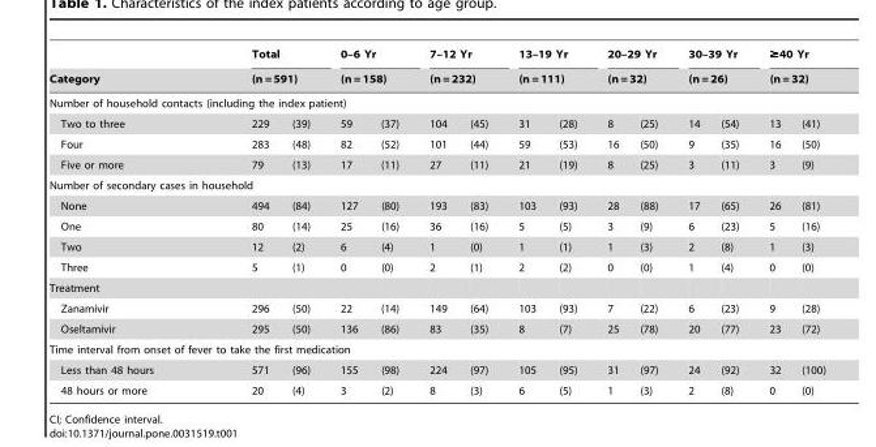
<table><thead><tr><td rowspan="2">Category</td><td rowspan="2" colspan="2">Total (n = 591)</td><td rowspan="2" colspan="2">0–6 Yr (n = 158)</td><td rowspan="2" colspan="2">7–12 Yr (n = 232)</td><td rowspan="2" colspan="2">13–19 Yr (n = 111)</td><td rowspan="2" colspan="2">20–29 Yr (n = 32)</td><td rowspan="2" colspan="2">30–39 Yr (n = 26)</td><td rowspan="2" colspan="2">≥40 Yr (n = 32)</td></tr><tr></tr><tr><td colspan="7">Number of household contacts (including the index patient)</td><td rowspan="2">31</td><td rowspan="2">(28)</td><td rowspan="2">8</td><td rowspan="2">(25)</td><td rowspan="2">14</td><td rowspan="2">(54)</td><td rowspan="2">13</td><td rowspan="2">(41)</td></tr><tr><td>Two to three</td><td>229</td><td>(39)</td><td>59</td><td>(37)</td><td>104</td><td>(45)</td></tr></thead><tbody><tr><td>Four</td><td>283</td><td>(48)</td><td>82</td><td>(52)</td><td>101</td><td>(44)</td><td>59</td><td>(53)</td><td>16</td><td>(50)</td><td>9</td><td>(35)</td><td>16</td><td>(50)</td></tr><tr><td>Five or more</td><td>79</td><td>(13)</td><td>17</td><td>(11)</td><td>27</td><td>(11)</td><td>21</td><td>(19)</td><td>8</td><td>(25)</td><td>3</td><td>(11)</td><td>3</td><td>(9)</td></tr><tr><td colspan="15">Number of secondary cases in household</td></tr><tr><td>None</td><td>494</td><td>(84)</td><td>127</td><td>(80)</td><td>193</td><td>(83)</td><td>103</td><td>(93)</td><td>28</td><td>(88)</td><td>17</td><td>(65)</td><td>26</td><td>(81)</td></tr><tr><td>One</td><td>80</td><td>(14)</td><td>25</td><td>(16)</td><td>36</td><td>(16)</td><td>5</td><td>(5)</td><td>3</td><td>(9)</td><td>6</td><td>(23)</td><td>5</td><td>(16)</td></tr><tr><td>Two</td><td>12</td><td>(2)</td><td>6</td><td>(4)</td><td>1</td><td>(0)</td><td>1</td><td>(1)</td><td>1</td><td>(3)</td><td>2</td><td>(8)</td><td>1</td><td>(3)</td></tr><tr><td>Three</td><td>5</td><td>(1)</td><td>0</td><td>(0)</td><td>2</td><td>(1)</td><td>2</td><td>(2)</td><td>0</td><td>(0)</td><td>1</td><td>(4)</td><td>0</td><td>(0)</td></tr><tr><td colspan="15">Treatment</td></tr><tr><td>Zanamivir</td><td>296</td><td>(50)</td><td>22</td><td>(14)</td><td>149</td><td>(64)</td><td>103</td><td>(93)</td><td>7</td><td>(22)</td><td>6</td><td>(23)</td><td>9</td><td>(28)</td></tr><tr><td>Oseltamivir</td><td>295</td><td>(50)</td><td>136</td><td>(86)</td><td>83</td><td>(35)</td><td>8</td><td>(7)</td><td>25</td><td>(78)</td><td>20</td><td>(77)</td><td>23</td><td>(72)</td></tr><tr><td colspan="15">Time interval from onset of fever to take the first medication</td></tr><tr><td>Less than 48 hours</td><td>571</td><td>(96)</td><td>155</td><td>(98)</td><td>224</td><td>(97)</td><td>105</td><td>(95)</td><td>31</td><td>(97)</td><td>24</td><td>(92)</td><td>32</td><td>(100)</td></tr><tr><td>48 hours or more</td><td>20</td><td>(4)</td><td>3</td><td>(2)</td><td>8</td><td>(3)</td><td>6</td><td>(5)</td><td>1</td><td>(3)</td><td>2</td><td>(8)</td><td>0</td><td>(0)</td></tr></tbody></table>